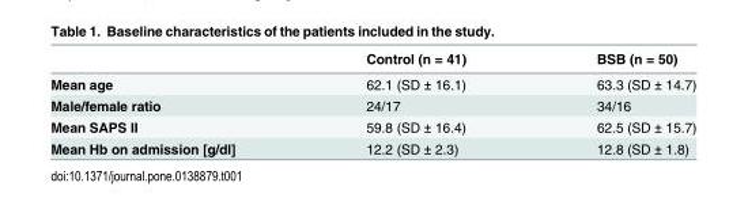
<table><thead><tr><td></td><td>Control (n = 41)</td><td>BSB (n = 50)</td></tr></thead><tbody><tr><td>Mean age</td><td>62.1 (SD ± 16.1)</td><td>63.3 (SD ± 14.7)</td></tr><tr><td>Male/female ratio</td><td>24/17</td><td>34/16</td></tr><tr><td>Mean SAPS II</td><td>59.8 (SD ± 16.4)</td><td>62.5 (SD ± 15.7)</td></tr><tr><td>Mean Hb on admission [g/dl]</td><td>12.2 (SD ± 2.3)</td><td>12.8 (SD ± 1.8)</td></tr></tbody></table>